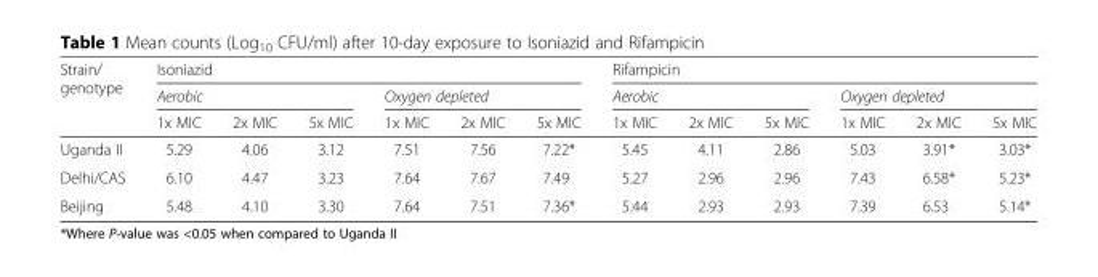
<table><thead><tr><td rowspan="3">Strain/ genotype</td><td colspan="6">Isoniazid</td><td colspan="6">Rifampicin</td></tr><tr><td colspan="3">Aerobic</td><td colspan="3">Oxygen depleted</td><td colspan="3">Aerobic</td><td colspan="3">Oxygen depleted</td></tr><tr><td>1x MIC</td><td>2x MIC</td><td>5x MIC</td><td>1x MIC</td><td>2x MIC</td><td>5x MIC</td><td>1x MIC</td><td>2x MIC</td><td>5x MIC</td><td>1x MIC</td><td>2x MIC</td><td>5x MIC</td></tr></thead><tbody><tr><td>Uganda II</td><td>5.29</td><td>4.06</td><td>3.12</td><td>7.51</td><td>7.56</td><td>7.22*</td><td>5.45</td><td>4.11</td><td>2.86</td><td>5.03</td><td>3.91*</td><td>3.03*</td></tr><tr><td>Delhi/CAS</td><td>6.10</td><td>4.47</td><td>3.23</td><td>7.64</td><td>7.67</td><td>7.49</td><td>5.27</td><td>2.96</td><td>2.96</td><td>7.43</td><td>6.58*</td><td>5.23*</td></tr><tr><td>Beijing</td><td>5.48</td><td>4.10</td><td>3.30</td><td>7.64</td><td>7.51</td><td>7.36*</td><td>5.44</td><td>2.93</td><td>2.93</td><td>7.39</td><td>6.53</td><td>5.14*</td></tr></tbody></table>